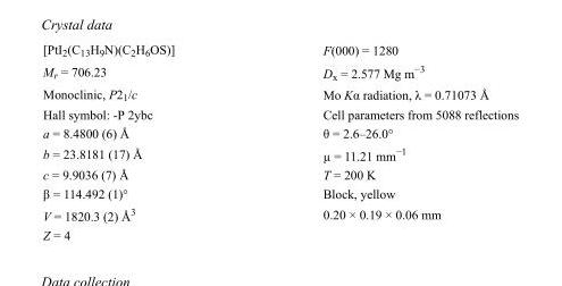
<table><tbody><tr><td>[PtI<sub>2</sub>(C<sub>13</sub>H<sub>9</sub>N)(C<sub>2</sub>H<sub>6</sub>OS)]</td><td>F(000) = 1280</td></tr><tr><td>M<sub>r</sub> = 706.23</td><td>D<sub>x</sub> = 2.577 Mg m<sup>−3</sup></td></tr><tr><td>Monoclinic, P2<sub>1</sub>/c</td><td>Mo Kα radiation, λ = 0.71073 Å</td></tr><tr><td>Hall symbol: -P 2ybc</td><td>Cell parameters from 5088 reflections</td></tr><tr><td>a = 8.4800 (6) Å</td><td>θ = 2.6–26.0°</td></tr><tr><td>b = 23.8181 (17) Å</td><td>µ = 11.21 mm<sup>−1</sup></td></tr><tr><td>c = 9.9036 (7) Å</td><td>T = 200 K</td></tr><tr><td>β = 114.492 (1)°</td><td>Block, yellow</td></tr><tr><td>V = 1820.3 (2) Å<sup>3</sup></td><td>0.20 × 0.19 × 0.06 mm</td></tr><tr><td>Z = 4</td><td></td></tr></tbody></table>